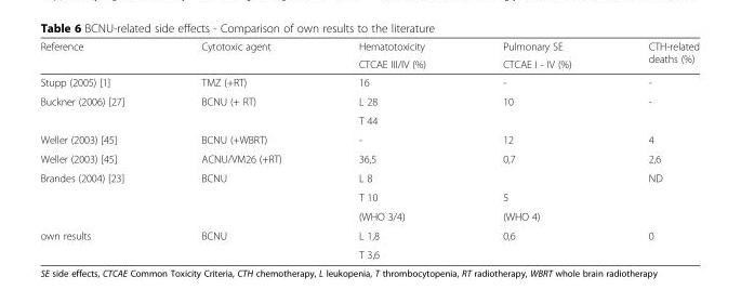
<table><thead><tr><td rowspan="2">Reference</td><td rowspan="2">Cytotoxic agent</td><td rowspan="2">Hematotoxicity CTCAE III/IV (%)</td><td rowspan="2">Pulmonary SE CTCAE I - IV (%)</td><td rowspan="2">CTH-related deaths (%)</td></tr><tr></tr></thead><tbody><tr><td>Stupp (2005) [1]</td><td>TMZ (+RT)</td><td>16</td><td>-</td><td>-</td></tr><tr><td rowspan="2">Buckner (2006) [27]</td><td rowspan="2">BCNU (+ RT)</td><td>L 28</td><td rowspan="2">10</td><td rowspan="2">-</td></tr><tr><td>T 44</td></tr><tr><td>Weller (2003) [45]</td><td>BCNU (+WBRT)</td><td>-</td><td>12</td><td>4</td></tr><tr><td>Weller (2003) [45]</td><td>ACNU/VM26 (+RT)</td><td>36,5</td><td>0,7</td><td>2,6</td></tr><tr><td rowspan="3">Brandes (2004) [23]</td><td rowspan="3">BCNU</td><td>L 8</td><td></td><td rowspan="3">ND</td></tr><tr><td>T 10</td><td>5</td></tr><tr><td>(WHO 3/4)</td><td>(WHO 4)</td></tr><tr><td rowspan="2">own results</td><td rowspan="2">BCNU</td><td>L 1,8</td><td rowspan="2">0,6</td><td rowspan="2">0</td></tr><tr><td>T 3,6</td></tr></tbody></table>